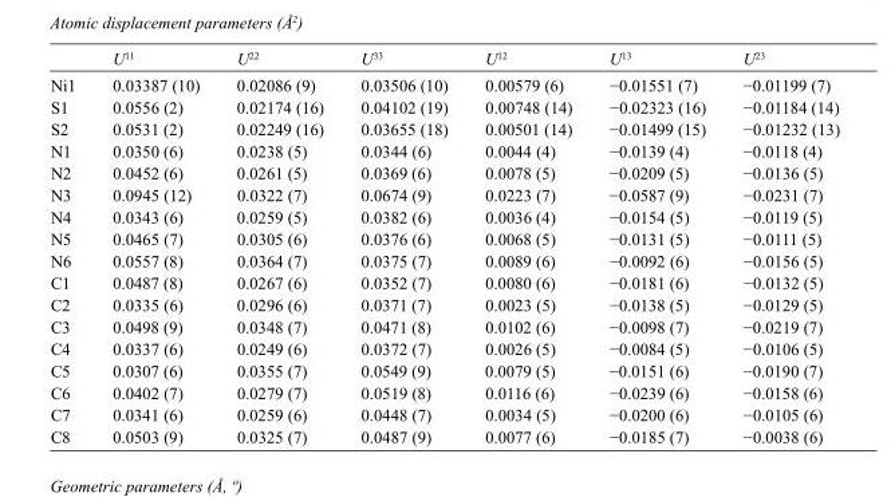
<table><thead><tr><td></td><td>U<sup>11</sup></td><td>U<sup>22</sup></td><td>U<sup>33</sup></td><td>U<sup>12</sup></td><td>U<sup>13</sup></td><td>U<sup>23</sup></td></tr></thead><tbody><tr><td>Ni1</td><td>0.03387 (10)</td><td>0.02086 (9)</td><td>0.03506 (10)</td><td>0.00579 (6)</td><td>−0.01551 (7)</td><td>−0.01199 (7)</td></tr><tr><td>S1</td><td>0.0556 (2)</td><td>0.02174 (16)</td><td>0.04102 (19)</td><td>0.00748 (14)</td><td>−0.02323 (16)</td><td>−0.01184 (14)</td></tr><tr><td>S2</td><td>0.0531 (2)</td><td>0.02249 (16)</td><td>0.03655 (18)</td><td>0.00501 (14)</td><td>−0.01499 (15)</td><td>−0.01232 (13)</td></tr><tr><td>N1</td><td>0.0350 (6)</td><td>0.0238 (5)</td><td>0.0344 (6)</td><td>0.0044 (4)</td><td>−0.0139 (4)</td><td>−0.0118 (4)</td></tr><tr><td>N2</td><td>0.0452 (6)</td><td>0.0261 (5)</td><td>0.0369 (6)</td><td>0.0078 (5)</td><td>−0.0209 (5)</td><td>−0.0136 (5)</td></tr><tr><td>N3</td><td>0.0945 (12)</td><td>0.0322 (7)</td><td>0.0674 (9)</td><td>0.0223 (7)</td><td>−0.0587 (9)</td><td>−0.0231 (7)</td></tr><tr><td>N4</td><td>0.0343 (6)</td><td>0.0259 (5)</td><td>0.0382 (6)</td><td>0.0036 (4)</td><td>−0.0154 (5)</td><td>−0.0119 (5)</td></tr><tr><td>N5</td><td>0.0465 (7)</td><td>0.0305 (6)</td><td>0.0376 (6)</td><td>0.0068 (5)</td><td>−0.0131 (5)</td><td>−0.0111 (5)</td></tr><tr><td>N6</td><td>0.0557 (8)</td><td>0.0364 (7)</td><td>0.0375 (7)</td><td>0.0089 (6)</td><td>−0.0092 (6)</td><td>−0.0156 (5)</td></tr><tr><td>C1</td><td>0.0487 (8)</td><td>0.0267 (6)</td><td>0.0352 (7)</td><td>0.0080 (6)</td><td>−0.0181 (6)</td><td>−0.0132 (5)</td></tr><tr><td>C2</td><td>0.0335 (6)</td><td>0.0296 (6)</td><td>0.0371 (7)</td><td>0.0023 (5)</td><td>−0.0138 (5)</td><td>−0.0129 (5)</td></tr><tr><td>C3</td><td>0.0498 (9)</td><td>0.0348 (7)</td><td>0.0471 (8)</td><td>0.0102 (6)</td><td>−0.0098 (7)</td><td>−0.0219 (7)</td></tr><tr><td>C4</td><td>0.0337 (6)</td><td>0.0249 (6)</td><td>0.0372 (7)</td><td>0.0026 (5)</td><td>−0.0084 (5)</td><td>−0.0106 (5)</td></tr><tr><td>C5</td><td>0.0307 (6)</td><td>0.0355 (7)</td><td>0.0549 (9)</td><td>0.0079 (5)</td><td>−0.0151 (6)</td><td>−0.0190 (7)</td></tr><tr><td>C6</td><td>0.0402 (7)</td><td>0.0279 (7)</td><td>0.0519 (8)</td><td>0.0116 (6)</td><td>−0.0239 (6)</td><td>−0.0158 (6)</td></tr><tr><td>C7</td><td>0.0341 (6)</td><td>0.0259 (6)</td><td>0.0448 (7)</td><td>0.0034 (5)</td><td>−0.0200 (6)</td><td>−0.0105 (6)</td></tr><tr><td>C8</td><td>0.0503 (9)</td><td>0.0325 (7)</td><td>0.0487 (9)</td><td>0.0077 (6)</td><td>−0.0185 (7)</td><td>−0.0038 (6)</td></tr></tbody></table>